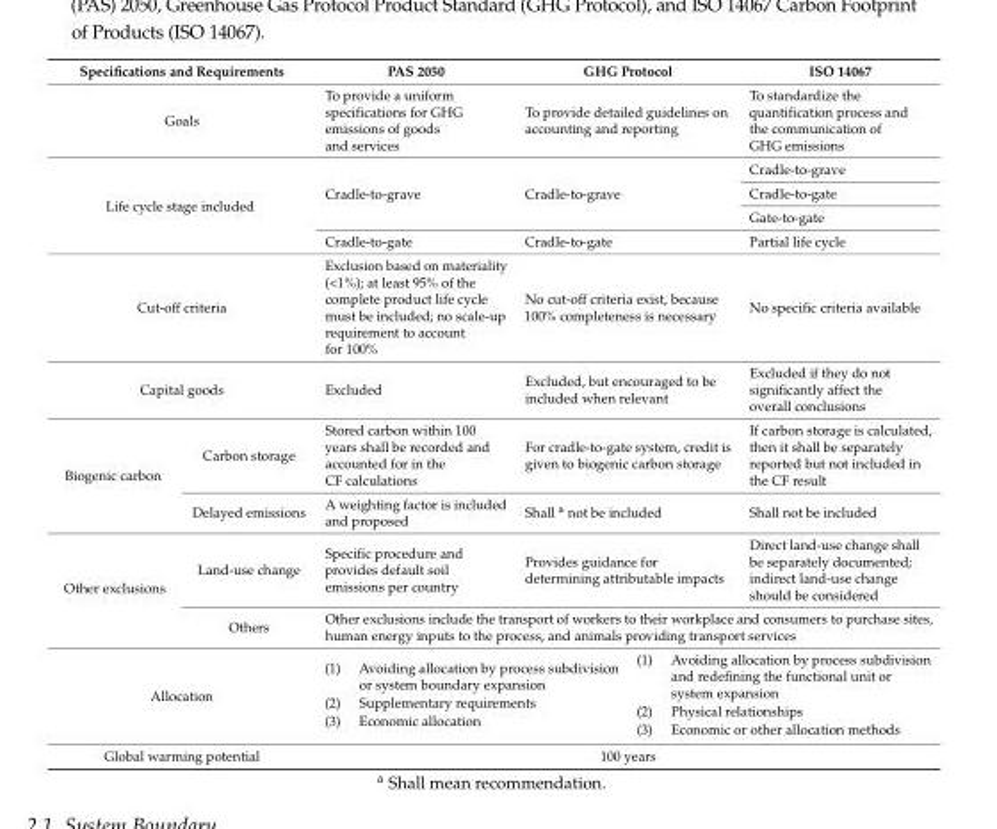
<table><thead><tr><td colspan="2">Specifications and Requirements</td><td>PAS 2050</td><td colspan="2">GHG Protocol</td><td>ISO 14067</td></tr></thead><tbody><tr><td colspan="2">Goals</td><td>To provide a uniform specifications for GHG emissions of goods and services</td><td colspan="2">To provide detailed guidelines on accounting and reporting</td><td>To standardize the quantification process and the communication of GHG emissions</td></tr><tr><td rowspan="4" colspan="2">Life cycle stage included</td><td rowspan="3">Cradle-to-grave</td><td rowspan="3" colspan="2">Cradle-to-grave</td><td>Cradle-to-grave</td></tr><tr><td>Cradle-to-gate</td></tr><tr><td>Gate-to-gate</td></tr><tr><td>Cradle-to-gate</td><td colspan="2">Cradle-to-gate</td><td>Partial life cycle</td></tr><tr><td colspan="2">Cut-off criteria</td><td>Exclusion based on materiality (&lt;1%); at least 95% of the complete product life cycle must be included; no scale-up requirement to account for 100%</td><td colspan="2">No cut-off criteria exist, because 100% completeness is necessary</td><td>No specific criteria available</td></tr><tr><td colspan="2">Capital goods</td><td>Excluded</td><td colspan="2">Excluded, but encouraged to be included when relevant</td><td>Excluded if they do not significantly affect the overall conclusions</td></tr><tr><td rowspan="2">Biogenic carbon</td><td>Carbon storage</td><td>Stored carbon within 100 years shall be recorded and accounted for in the CF calculations</td><td colspan="2">For cradle-to-gate system, credit is given to biogenic carbon storage</td><td>If carbon storage is calculated, then it shall be separately reported but not included in the CF result</td></tr><tr><td>Delayed emissions</td><td>A weighting factor is included and proposed</td><td colspan="2">Shall <sup>a</sup> not be included</td><td>Shall not be included</td></tr><tr><td rowspan="2">Other exclusions</td><td>Land-use change</td><td>Specific procedure and provides default soil emissions per country</td><td colspan="2">Provides guidance for determining attributable impacts</td><td>Direct land-use change shall be separately documented; indirect land-use change should be considered</td></tr><tr><td>Others</td><td colspan="4">Other exclusions include the transport of workers to their workplace and consumers to purchase sites, human energy inputs to the process, and animals providing transport services</td></tr><tr><td colspan="2">Allocation</td><td colspan="2">(1) Avoiding allocation by process subdivision or system boundary expansion (2) Supplementary requirements (3) Economic allocation</td><td colspan="2">(1) Avoiding allocation by process subdivision and redefining the functional unit or system expansion (2) Physical relationships (3) Economic or other allocation methods</td></tr><tr><td colspan="2">Global warming potential</td><td colspan="4">100 years</td></tr></tbody></table>